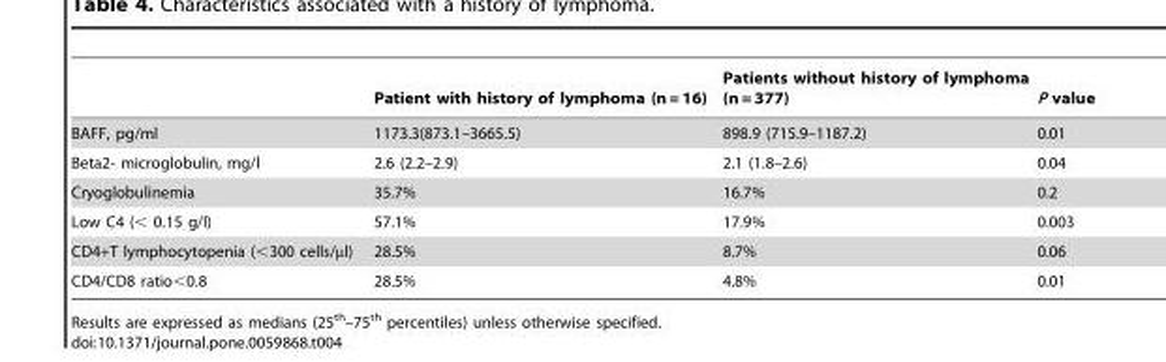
<table><thead><tr><td></td><td>Patient with history of lymphoma (n = 16)</td><td>Patients without history of lymphoma (n = 377)</td><td>P value</td></tr></thead><tbody><tr><td>BAFF, pg/ml</td><td>1173.3(873.1–3665.5)</td><td>898.9 (715.9–1187.2)</td><td>0.01</td></tr><tr><td>Beta2- microglobulin, mg/l</td><td>2.6 (2.2–2.9)</td><td>2.1 (1.8–2.6)</td><td>0.04</td></tr><tr><td>Cryoglobulinemia</td><td>35.7%</td><td>16.7%</td><td>0.2</td></tr><tr><td>Low C4 (&lt; 0.15 g/l)</td><td>57.1%</td><td>17.9%</td><td>0.003</td></tr><tr><td>CD4+T lymphocytopenia (&lt;300 cells/µl)</td><td>28.5%</td><td>8.7%</td><td>0.06</td></tr><tr><td>CD4/CD8 ratio&lt;0.8</td><td>28.5%</td><td>4.8%</td><td>0.01</td></tr></tbody></table>